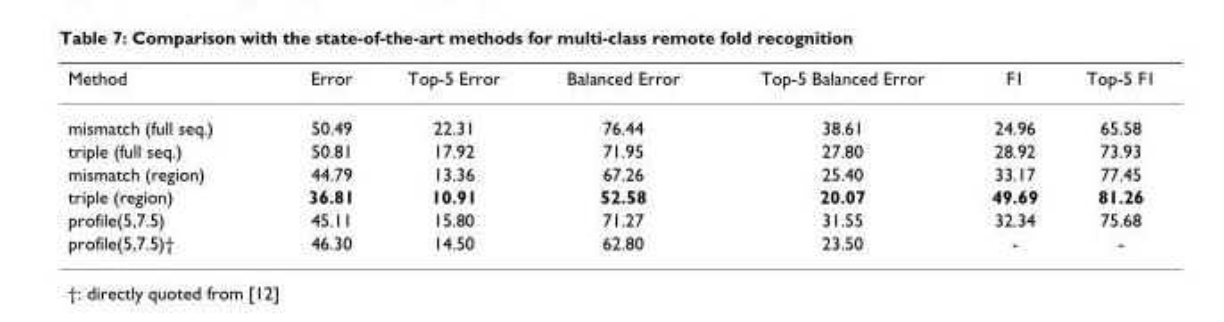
<table><thead><tr><td>Method</td><td>Error</td><td>Top-5 Error</td><td>Balanced Error</td><td>Top-5 Balanced Error</td><td>F1</td><td>Top-5 F1</td></tr></thead><tbody><tr><td>mismatch (full seq.)</td><td>50.49</td><td>22.31</td><td>76.44</td><td>38.61</td><td>24.96</td><td>65.58</td></tr><tr><td>triple (full seq.)</td><td>50.81</td><td>17.92</td><td>71.95</td><td>27.80</td><td>28.92</td><td>73.93</td></tr><tr><td>mismatch (region)</td><td>44.79</td><td>13.36</td><td>67.26</td><td>25.40</td><td>33.17</td><td>77.45</td></tr><tr><td>triple (region)</td><td>36.81</td><td>10.91</td><td>52.58</td><td>20.07</td><td>49.69</td><td>81.26</td></tr><tr><td>profile(5,7.5)</td><td>45.11</td><td>15.80</td><td>71.27</td><td>31.55</td><td>32.34</td><td>75.68</td></tr><tr><td>profile(5,7.5)†</td><td>46.30</td><td>14.50</td><td>62.80</td><td>23.50</td><td>-</td><td>-</td></tr></tbody></table>